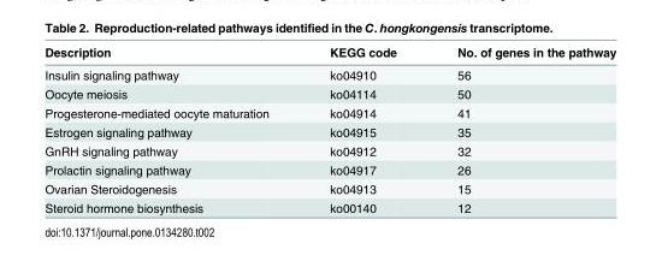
<table><thead><tr><td>Description</td><td>KEGG code</td><td>No. of genes in the pathway</td></tr></thead><tbody><tr><td>Insulin signaling pathway</td><td>ko04910</td><td>56</td></tr><tr><td>Oocyte meiosis</td><td>ko04114</td><td>50</td></tr><tr><td>Progesterone-mediated oocyte maturation</td><td>ko04914</td><td>41</td></tr><tr><td>Estrogen signaling pathway</td><td>ko04915</td><td>35</td></tr><tr><td>GnRH signaling pathway</td><td>ko04912</td><td>32</td></tr><tr><td>Prolactin signaling pathway</td><td>ko04917</td><td>26</td></tr><tr><td>Ovarian Steroidogenesis</td><td>ko04913</td><td>15</td></tr><tr><td>Steroid hormone biosynthesis</td><td>ko00140</td><td>12</td></tr></tbody></table>